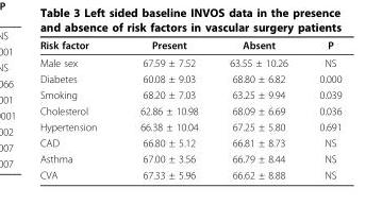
<table><thead><tr><td>Risk factor</td><td>Present</td><td>Absent</td><td>P</td></tr></thead><tbody><tr><td>Male sex</td><td>67.59 ± 7.52</td><td>63.55 ± 10.26</td><td>NS</td></tr><tr><td>Diabetes</td><td>60.08 ± 9.03</td><td>68.80 ± 6.82</td><td>0.000</td></tr><tr><td>Smoking</td><td>68.20 ± 7.03</td><td>63.25 ± 9.94</td><td>0.039</td></tr><tr><td>Cholesterol</td><td>62.86 ± 10.98</td><td>68.09 ± 6.69</td><td>0.036</td></tr><tr><td>Hypertension</td><td>66.38 ± 10.04</td><td>67.25 ± 5.80</td><td>0.691</td></tr><tr><td>CAD</td><td>66.80 ± 5.12</td><td>66.81 ± 8.73</td><td>NS</td></tr><tr><td>Asthma</td><td>67.00 ± 3.56</td><td>66.79 ± 8.44</td><td>NS</td></tr><tr><td>CVA</td><td>67.33 ± 5.96</td><td>66.62 ± 8.88</td><td>NS</td></tr></tbody></table>